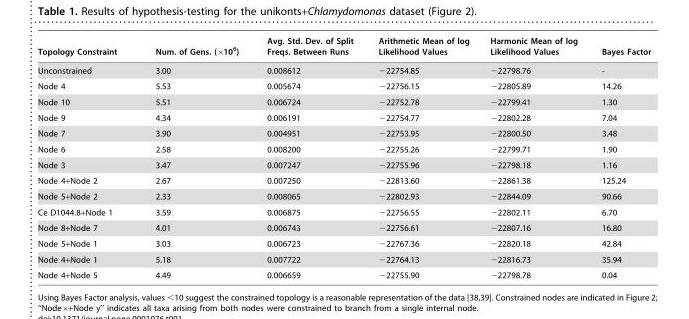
<table><thead><tr><td>Topology Constraint</td><td>Num. of Gens. (×10<sup>6</sup>)</td><td>Avg. Std. Dev. of Split Freqs. Between Runs</td><td>Arithmetic Mean of log Likelihood Values</td><td>Harmonic Mean of log Likelihood Values</td><td>Bayes Factor</td></tr></thead><tbody><tr><td>Unconstrained</td><td>3.00</td><td>0.008612</td><td>−22754.85</td><td>−22798.76</td><td>-</td></tr><tr><td>Node 4</td><td>5.53</td><td>0.005674</td><td>−22756.15</td><td>−22805.89</td><td>14.26</td></tr><tr><td>Node 10</td><td>5.51</td><td>0.006724</td><td>−22752.78</td><td>−22799.41</td><td>1.30</td></tr><tr><td>Node 9</td><td>4.34</td><td>0.006191</td><td>−22754.77</td><td>−22802.28</td><td>7.04</td></tr><tr><td>Node 7</td><td>3.90</td><td>0.004951</td><td>−22753.95</td><td>−22800.50</td><td>3.48</td></tr><tr><td>Node 6</td><td>2.58</td><td>0.008200</td><td>−22755.26</td><td>−22799.71</td><td>1.90</td></tr><tr><td>Node 3</td><td>3.47</td><td>0.007247</td><td>−22755.96</td><td>−22798.18</td><td>1.16</td></tr><tr><td>Node 4+Node 2</td><td>2.67</td><td>0.007250</td><td>−22813.60</td><td>−22861.38</td><td>125.24</td></tr><tr><td>Node 5+Node 2</td><td>2.33</td><td>0.008065</td><td>−22802.93</td><td>−22844.09</td><td>90.66</td></tr><tr><td>Ce D1044.8+Node 1</td><td>3.59</td><td>0.006875</td><td>−22756.55</td><td>−22802.11</td><td>6.70</td></tr><tr><td>Node 8+Node 7</td><td>4.01</td><td>0.006743</td><td>−22756.61</td><td>−22807.16</td><td>16.80</td></tr><tr><td>Node 5+Node 1</td><td>3.03</td><td>0.006723</td><td>−22767.36</td><td>−22820.18</td><td>42.84</td></tr><tr><td>Node 4+Node 1</td><td>5.18</td><td>0.007722</td><td>−22764.13</td><td>−22816.73</td><td>35.94</td></tr><tr><td>Node 4+Node 5</td><td>4.49</td><td>0.006659</td><td>−22755.90</td><td>−22798.78</td><td>0.04</td></tr></tbody></table>